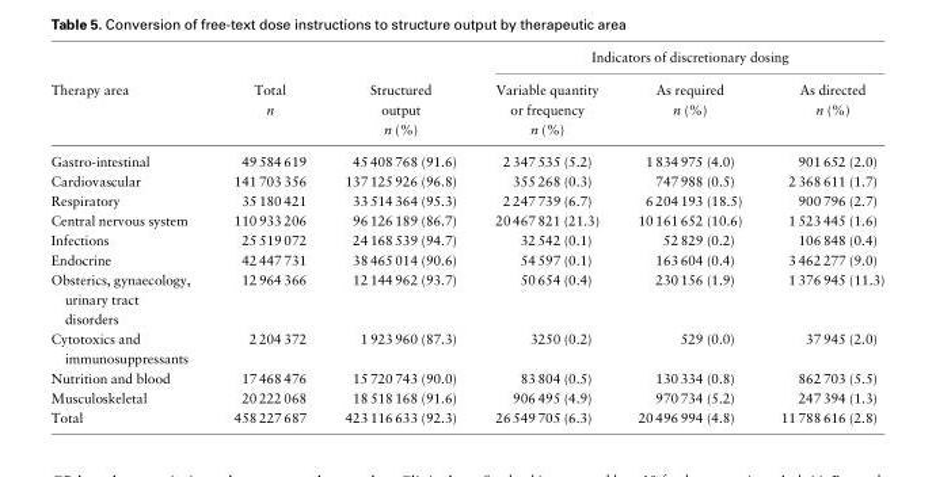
<table><thead><tr><td rowspan="2">Therapy area</td><td rowspan="2">Total n</td><td rowspan="2">Structured output n (%)</td><td colspan="3">Indicators of discretionary dosing</td></tr><tr><td>Variable quantity or frequency n (%)</td><td>As required n (%)</td><td>As directed n (%)</td></tr></thead><tbody><tr><td>Gastro-intestinal</td><td>49 584 619</td><td>45 408 768 (91.6)</td><td>2 347 535 (5.2)</td><td>1 834 975 (4.0)</td><td>901 652 (2.0)</td></tr><tr><td>Cardiovascular</td><td>141 703 356</td><td>137 125 926 (96.8)</td><td>355 268 (0.3)</td><td>747 988 (0.5)</td><td>2 368 611 (1.7)</td></tr><tr><td>Respiratory</td><td>35 180 421</td><td>33 514 364 (95.3)</td><td>2 247 739 (6.7)</td><td>6 204 193 (18.5)</td><td>900 796 (2.7)</td></tr><tr><td>Central nervous system</td><td>110 933 206</td><td>96 126 189 (86.7)</td><td>20 467 821 (21.3)</td><td>10 161 652 (10.6)</td><td>1 523 445 (1.6)</td></tr><tr><td>Infections</td><td>25 519 072</td><td>24 168 539 (94.7)</td><td>32 542 (0.1)</td><td>52 829 (0.2)</td><td>106 848 (0.4)</td></tr><tr><td>Endocrine</td><td>42 447 731</td><td>38 465 014 (90.6)</td><td>54 597 (0.1)</td><td>163 604 (0.4)</td><td>3 462 277 (9.0)</td></tr><tr><td>Obsterics, gynaecology, urinary tract disorders</td><td>12 964 366</td><td>12 144 962 (93.7)</td><td>50 654 (0.4)</td><td>230 156 (1.9)</td><td>1 376 945 (11.3)</td></tr><tr><td>Cytotoxics and immunosuppressants</td><td>2 204 372</td><td>1 923 960 (87.3)</td><td>3250 (0.2)</td><td>529 (0.0)</td><td>37 945 (2.0)</td></tr><tr><td>Nutrition and blood</td><td>17 468 476</td><td>15 720 743 (90.0)</td><td>83 804 (0.5)</td><td>130 334 (0.8)</td><td>862 703 (5.5)</td></tr><tr><td>Musculoskeletal</td><td>20 222 068</td><td>18 518 168 (91.6)</td><td>906 495 (4.9)</td><td>970 734 (5.2)</td><td>247 394 (1.3)</td></tr><tr><td>Total</td><td>458 227 687</td><td>423 116 633 (92.3)</td><td>26 549 705 (6.3)</td><td>20 496 994 (4.8)</td><td>11 788 616 (2.8)</td></tr></tbody></table>